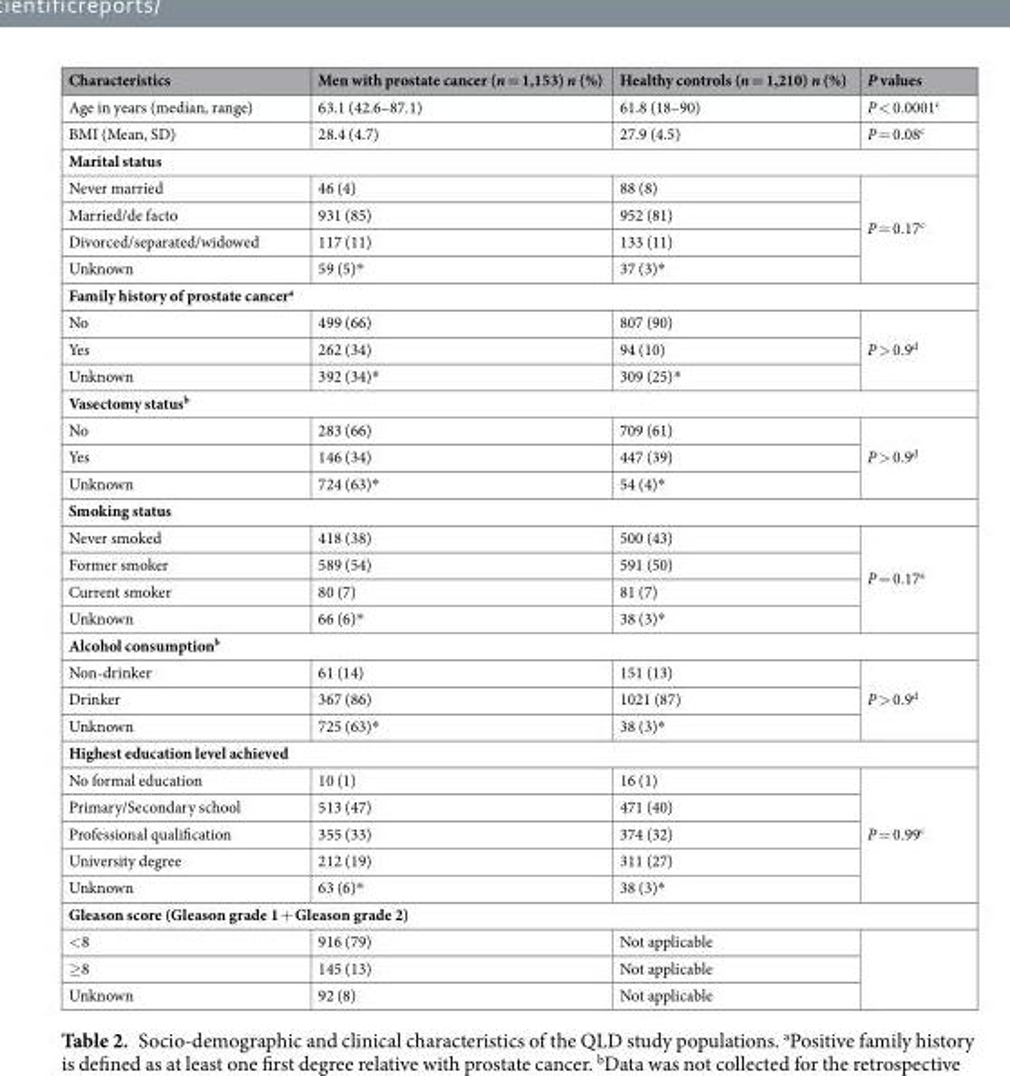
<table><thead><tr><td>Characteristics</td><td>Men with prostate cancer (n = 1,153) n (%)</td><td>Healthy controls (n = 1,210) n (%)</td><td>P values</td></tr></thead><tbody><tr><td>Age in years (median, range)</td><td>63.1 (42.6–87.1)</td><td>61.8 (18–90)</td><td>P &lt; 0.0001<sup>c</sup></td></tr><tr><td>BMI (Mean, SD)</td><td>28.4 (4.7)</td><td>27.9 (4.5)</td><td>P = 0.08<sup>c</sup></td></tr><tr><td colspan="4">Marital status</td></tr><tr><td>Never married</td><td>46 (4)</td><td>88 (8)</td><td rowspan="4">P = 0.17<sup>c</sup></td></tr><tr><td>Married/de facto</td><td>931 (85)</td><td>952 (81)</td></tr><tr><td>Divorced/separated/widowed</td><td>117 (11)</td><td>133 (11)</td></tr><tr><td>Unknown</td><td>59 (5)*</td><td>37 (3)*</td></tr><tr><td colspan="4">Family history of prostate cancer<sup>a</sup></td></tr><tr><td>No</td><td>499 (66)</td><td>807 (90)</td><td rowspan="3">P &gt; 0.9<sup>d</sup></td></tr><tr><td>Yes</td><td>262 (34)</td><td>94 (10)</td></tr><tr><td>Unknown</td><td>392 (34)*</td><td>309 (25)*</td></tr><tr><td colspan="4">Vasectomy status<sup>b</sup></td></tr><tr><td>No</td><td>283 (66)</td><td>709 (61)</td><td rowspan="3">P &gt; 0.9<sup>d</sup></td></tr><tr><td>Yes</td><td>146 (34)</td><td>447 (39)</td></tr><tr><td>Unknown</td><td>724 (63)*</td><td>54 (4)*</td></tr><tr><td colspan="4">Smoking status</td></tr><tr><td>Never smoked</td><td>418 (38)</td><td>500 (43)</td><td rowspan="4">P = 0.17<sup>a</sup></td></tr><tr><td>Former smoker</td><td>589 (54)</td><td>591 (50)</td></tr><tr><td>Current smoker</td><td>80 (7)</td><td>81 (7)</td></tr><tr><td>Unknown</td><td>66 (6)*</td><td>38 (3)*</td></tr><tr><td colspan="4">Alcohol consumption<sup>b</sup></td></tr><tr><td>Non-drinker</td><td>61 (14)</td><td>151 (13)</td><td rowspan="3">P &gt; 0.9<sup>d</sup></td></tr><tr><td>Drinker</td><td>367 (86)</td><td>1021 (87)</td></tr><tr><td>Unknown</td><td>725 (63)*</td><td>38 (3)*</td></tr><tr><td colspan="4">Highest education level achieved</td></tr><tr><td>No formal education</td><td>10 (1)</td><td>16 (1)</td><td rowspan="5">P = 0.99<sup>c</sup></td></tr><tr><td>Primary/Secondary school</td><td>513 (47)</td><td>471 (40)</td></tr><tr><td>Professional qualification</td><td>355 (33)</td><td>374 (32)</td></tr><tr><td>University degree</td><td>212 (19)</td><td>311 (27)</td></tr><tr><td>Unknown</td><td>63 (6)*</td><td>38 (3)*</td></tr><tr><td colspan="4">Gleason score (Gleason grade 1 + Gleason grade 2)</td></tr><tr><td>&lt;8</td><td>916 (79)</td><td>Not applicable</td><td rowspan="3"></td></tr><tr><td>≥8</td><td>145 (13)</td><td>Not applicable</td></tr><tr><td>Unknown</td><td>92 (8)</td><td>Not applicable</td></tr></tbody></table>